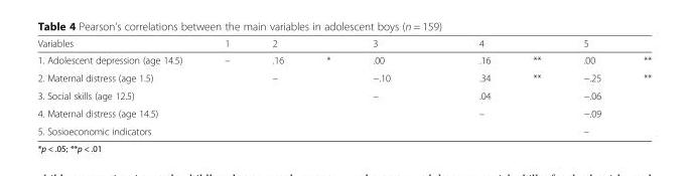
<table><thead><tr><td>Variables</td><td>1</td><td>2</td><td></td><td>3</td><td>4</td><td></td><td>5</td><td></td></tr></thead><tbody><tr><td>1. Adolescent depression (age 14.5)</td><td>–</td><td>.16</td><td>*</td><td>.00</td><td>.16</td><td>**</td><td>.00</td><td>**</td></tr><tr><td>2. Maternal distress (age 1.5)</td><td></td><td>–</td><td></td><td>−.10</td><td>.34</td><td>**</td><td>−.25</td><td>**</td></tr><tr><td>3. Social skills (age 12.5)</td><td></td><td></td><td></td><td>–</td><td>.04</td><td></td><td>−.06</td><td></td></tr><tr><td>4. Maternal distress (age 14.5)</td><td></td><td></td><td></td><td></td><td>–</td><td></td><td>−.09</td><td></td></tr><tr><td>5. Sosioeconomic indicators</td><td></td><td></td><td></td><td></td><td></td><td></td><td>–</td><td></td></tr></tbody></table>